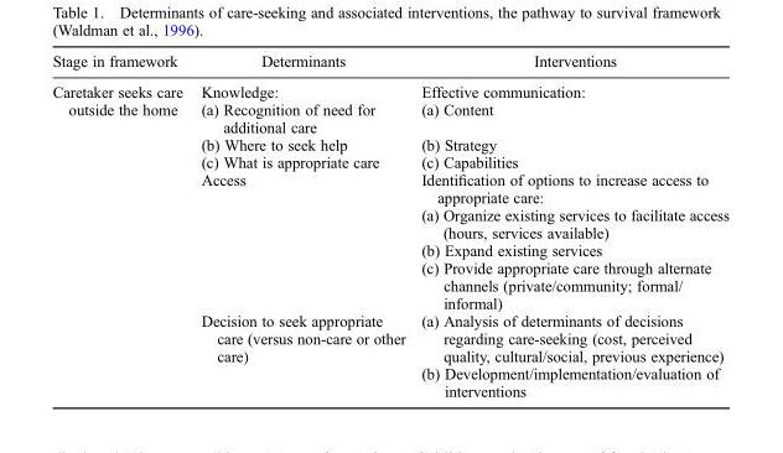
<table><thead><tr><td>Stage in framework</td><td>Determinants</td><td>Interventions</td></tr></thead><tbody><tr><td rowspan="10">Caretaker seeks care outside the home</td><td>Knowledge:</td><td>Effective communication:</td></tr><tr><td>(a) Recognition of need for additional care</td><td>(a) Content</td></tr><tr><td>(b) Where to seek help</td><td>(b) Strategy</td></tr><tr><td>(c) What is appropriate care</td><td>(c) Capabilities</td></tr><tr><td rowspan="4">Access</td><td>Identification of options to increase access to appropriate care:</td></tr><tr><td>(a) Organize existing services to facilitate access (hours, services available)</td></tr><tr><td>(b) Expand existing services</td></tr><tr><td>(c) Provide appropriate care through alternate channels (private/community; formal/ informal)</td></tr><tr><td rowspan="2">Decision to seek appropriate care (versus non-care or other care)</td><td>(a) Analysis of determinants of decisions regarding care-seeking (cost, perceived quality, cultural/social, previous experience)</td></tr><tr><td>(b) Development/implementation/evaluation of interventions</td></tr></tbody></table>